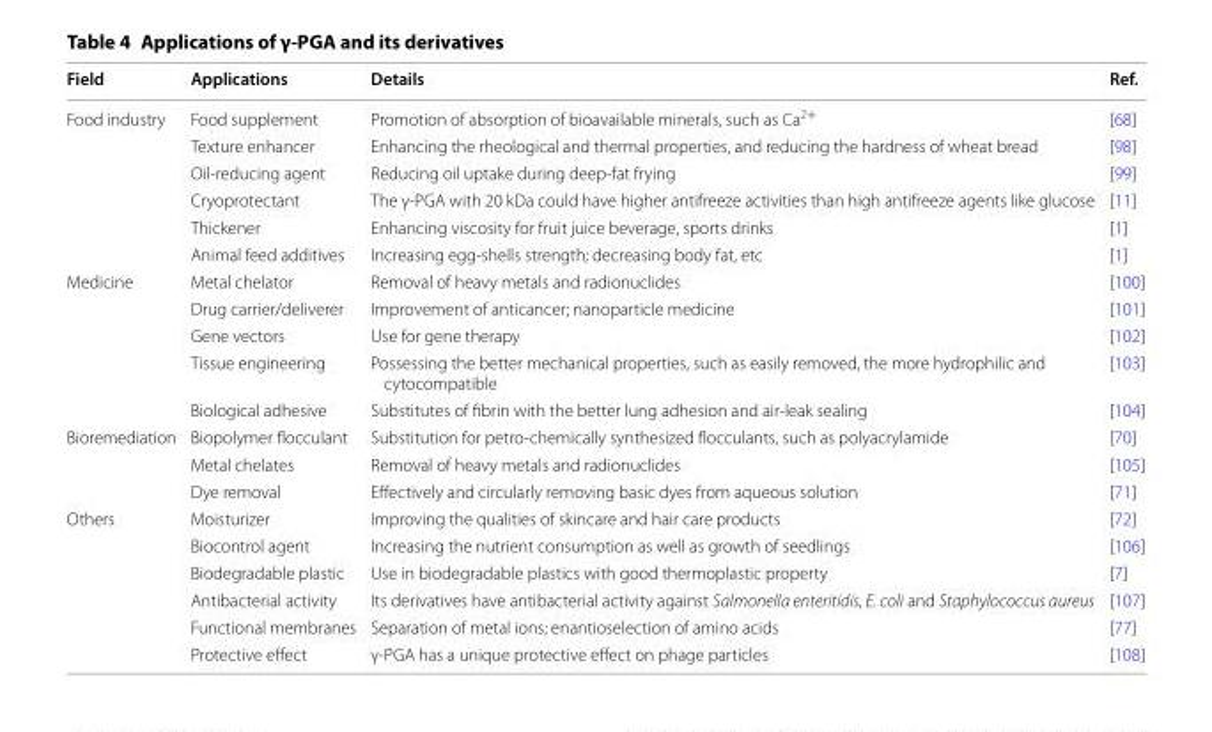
<table><thead><tr><td>Field</td><td>Applications</td><td>Details</td><td>Ref.</td></tr></thead><tbody><tr><td rowspan="6">Food industry</td><td>Food supplement</td><td>Promotion of absorption of bioavailable minerals, such as Ca<sup>2+</sup></td><td>[68]</td></tr><tr><td>Texture enhancer</td><td>Enhancing the rheological and thermal properties, and reducing the hardness of wheat bread</td><td>[98]</td></tr><tr><td>Oil-reducing agent</td><td>Reducing oil uptake during deep-fat frying</td><td>[99]</td></tr><tr><td>Cryoprotectant</td><td>The γ-PGA with 20 kDa could have higher antifreeze activities than high antifreeze agents like glucose</td><td>[11]</td></tr><tr><td>Thickener</td><td>Enhancing viscosity for fruit juice beverage, sports drinks</td><td>[1]</td></tr><tr><td>Animal feed additives</td><td>Increasing egg-shells strength; decreasing body fat, etc</td><td>[1]</td></tr><tr><td rowspan="5">Medicine</td><td>Metal chelator</td><td>Removal of heavy metals and radionuclides</td><td>[100]</td></tr><tr><td>Drug carrier/deliverer</td><td>Improvement of anticancer; nanoparticle medicine</td><td>[101]</td></tr><tr><td>Gene vectors</td><td>Use for gene therapy</td><td>[102]</td></tr><tr><td>Tissue engineering</td><td>Possessing the better mechanical properties, such as easily removed, the more hydrophilic and cytocompatible</td><td>[103]</td></tr><tr><td>Biological adhesive</td><td>Substitutes of fibrin with the better lung adhesion and air-leak sealing</td><td>[104]</td></tr><tr><td rowspan="3">Bioremediation</td><td>Biopolymer flocculant</td><td>Substitution for petro-chemically synthesized flocculants, such as polyacrylamide</td><td>[70]</td></tr><tr><td>Metal chelates</td><td>Removal of heavy metals and radionuclides</td><td>[105]</td></tr><tr><td>Dye removal</td><td>Effectively and circularly removing basic dyes from aqueous solution</td><td>[71]</td></tr><tr><td rowspan="6">Others</td><td>Moisturizer</td><td>Improving the qualities of skincare and hair care products</td><td>[72]</td></tr><tr><td>Biocontrol agent</td><td>Increasing the nutrient consumption as well as growth of seedlings</td><td>[106]</td></tr><tr><td>Biodegradable plastic</td><td>Use in biodegradable plastics with good thermoplastic property</td><td>[7]</td></tr><tr><td>Antibacterial activity</td><td>Its derivatives have antibacterial activity against Salmonella enteritidis, E. coli and Staphylococcus aureus</td><td>[107]</td></tr><tr><td>Functional membranes</td><td>Separation of metal ions; enantioselection of amino acids</td><td>[77]</td></tr><tr><td>Protective effect</td><td>γ-PGA has a unique protective effect on phage particles</td><td>[108]</td></tr></tbody></table>